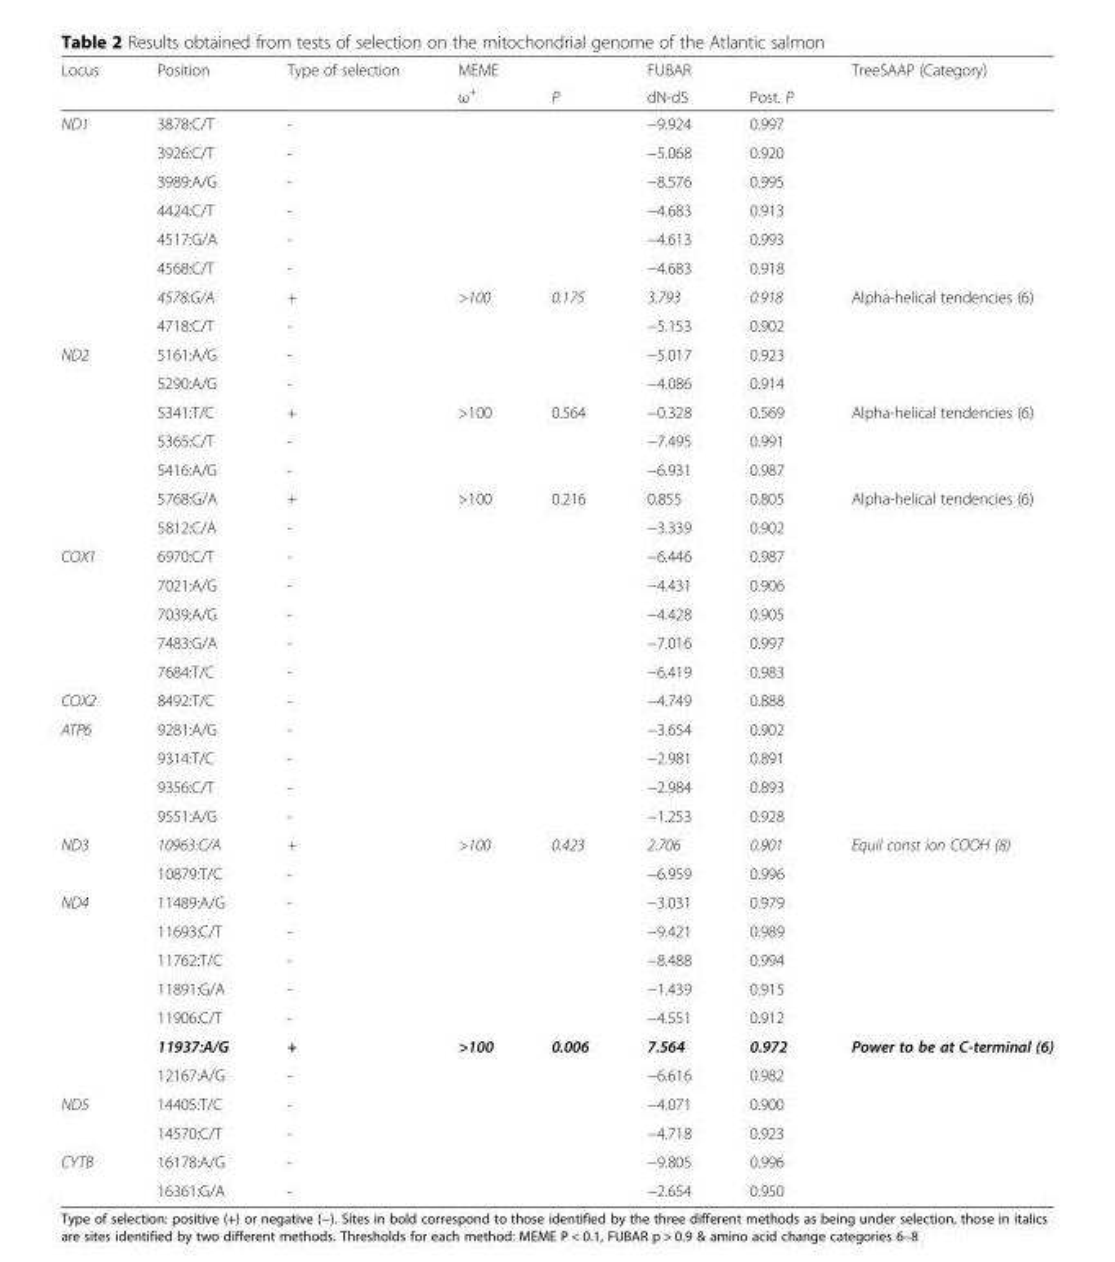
<table><thead><tr><td rowspan="2">Locus</td><td rowspan="2">Position</td><td rowspan="2">Type of selection</td><td colspan="2">MEME</td><td colspan="2">FUBAR</td><td rowspan="2">TreeSAAP (Category)</td></tr><tr><td>ω<sup>+</sup></td><td>P</td><td>dN-dS</td><td>Post. P</td></tr></thead><tbody><tr><td rowspan="8">ND1</td><td>3878:C/T</td><td>-</td><td></td><td></td><td>−9.924</td><td>0.997</td><td></td></tr><tr><td>3926:C/T</td><td>-</td><td></td><td></td><td>−5.068</td><td>0.920</td><td></td></tr><tr><td>3989:A/G</td><td>-</td><td></td><td></td><td>−8.576</td><td>0.995</td><td></td></tr><tr><td>4424:C/T</td><td>-</td><td></td><td></td><td>−4.683</td><td>0.913</td><td></td></tr><tr><td>4517:G/A</td><td>-</td><td></td><td></td><td>−4.613</td><td>0.993</td><td></td></tr><tr><td>4568:C/T</td><td>-</td><td></td><td></td><td>−4.683</td><td>0.918</td><td></td></tr><tr><td>4578:G/A</td><td>+</td><td>&gt;100</td><td>0.175</td><td>3.793</td><td>0.918</td><td>Alpha-helical tendencies (6)</td></tr><tr><td>4718:C/T</td><td>-</td><td></td><td></td><td>−5.153</td><td>0.902</td><td></td></tr><tr><td rowspan="7">ND2</td><td>5161:A/G</td><td>-</td><td></td><td></td><td>−5.017</td><td>0.923</td><td></td></tr><tr><td>5290:A/G</td><td>-</td><td></td><td></td><td>−4.086</td><td>0.914</td><td></td></tr><tr><td>5341:T/C</td><td>+</td><td>&gt;100</td><td>0.564</td><td>−0.328</td><td>0.569</td><td>Alpha-helical tendencies (6)</td></tr><tr><td>5365:C/T</td><td>-</td><td></td><td></td><td>−7.495</td><td>0.991</td><td></td></tr><tr><td>5416:A/G</td><td>-</td><td></td><td></td><td>−6.931</td><td>0.987</td><td></td></tr><tr><td>5768:G/A</td><td>+</td><td>&gt;100</td><td>0.216</td><td>0.855</td><td>0.805</td><td>Alpha-helical tendencies (6)</td></tr><tr><td>5812:C/A</td><td>-</td><td></td><td></td><td>−3.339</td><td>0.902</td><td></td></tr><tr><td rowspan="5">COX1</td><td>6970:C/T</td><td>-</td><td></td><td></td><td>−6.446</td><td>0.987</td><td></td></tr><tr><td>7021:A/G</td><td>-</td><td></td><td></td><td>−4.431</td><td>0.906</td><td></td></tr><tr><td>7039:A/G</td><td>-</td><td></td><td></td><td>−4.428</td><td>0.905</td><td></td></tr><tr><td>7483:G/A</td><td>-</td><td></td><td></td><td>−7.016</td><td>0.997</td><td></td></tr><tr><td>7684:T/C</td><td>-</td><td></td><td></td><td>−6.419</td><td>0.983</td><td></td></tr><tr><td>COX2</td><td>8492:T/C</td><td>-</td><td></td><td></td><td>−4.749</td><td>0.888</td><td></td></tr><tr><td rowspan="4">ATP6</td><td>9281:A/G</td><td>-</td><td></td><td></td><td>−3.654</td><td>0.902</td><td></td></tr><tr><td>9314:T/C</td><td>-</td><td></td><td></td><td>−2.981</td><td>0.891</td><td></td></tr><tr><td>9356:C/T</td><td>-</td><td></td><td></td><td>−2.984</td><td>0.893</td><td></td></tr><tr><td>9551:A/G</td><td>-</td><td></td><td></td><td>−1.253</td><td>0.928</td><td></td></tr><tr><td rowspan="2">ND3</td><td>10963:C/A</td><td>+</td><td>&gt;100</td><td>0.423</td><td>2.706</td><td>0.901</td><td>Equil const ion COOH (8)</td></tr><tr><td>10879:T/C</td><td>-</td><td></td><td></td><td>−6.959</td><td>0.996</td><td></td></tr><tr><td rowspan="7">ND4</td><td>11489:A/G</td><td>-</td><td></td><td></td><td>−3.031</td><td>0.979</td><td></td></tr><tr><td>11693:C/T</td><td>-</td><td></td><td></td><td>−9.421</td><td>0.989</td><td></td></tr><tr><td>11762:T/C</td><td>-</td><td></td><td></td><td>−8.488</td><td>0.994</td><td></td></tr><tr><td>11891:G/A</td><td>-</td><td></td><td></td><td>−1.439</td><td>0.915</td><td></td></tr><tr><td>11906:C/T</td><td>-</td><td></td><td></td><td>−4.551</td><td>0.912</td><td></td></tr><tr><td>11937:A/G</td><td>+</td><td>&gt;100</td><td>0.006</td><td>7.564</td><td>0.972</td><td>Power to be at C-terminal (6)</td></tr><tr><td>12167:A/G</td><td>-</td><td></td><td></td><td>−6.616</td><td>0.982</td><td></td></tr><tr><td rowspan="2">ND5</td><td>14405:T/C</td><td>-</td><td></td><td></td><td>−4.071</td><td>0.900</td><td></td></tr><tr><td>14570:C/T</td><td>-</td><td></td><td></td><td>−4.718</td><td>0.923</td><td></td></tr><tr><td rowspan="2">CYTB</td><td>16178:A/G</td><td>-</td><td></td><td></td><td>−9.805</td><td>0.996</td><td></td></tr><tr><td>16361:G/A</td><td>-</td><td></td><td></td><td>−2.654</td><td>0.950</td><td></td></tr></tbody></table>